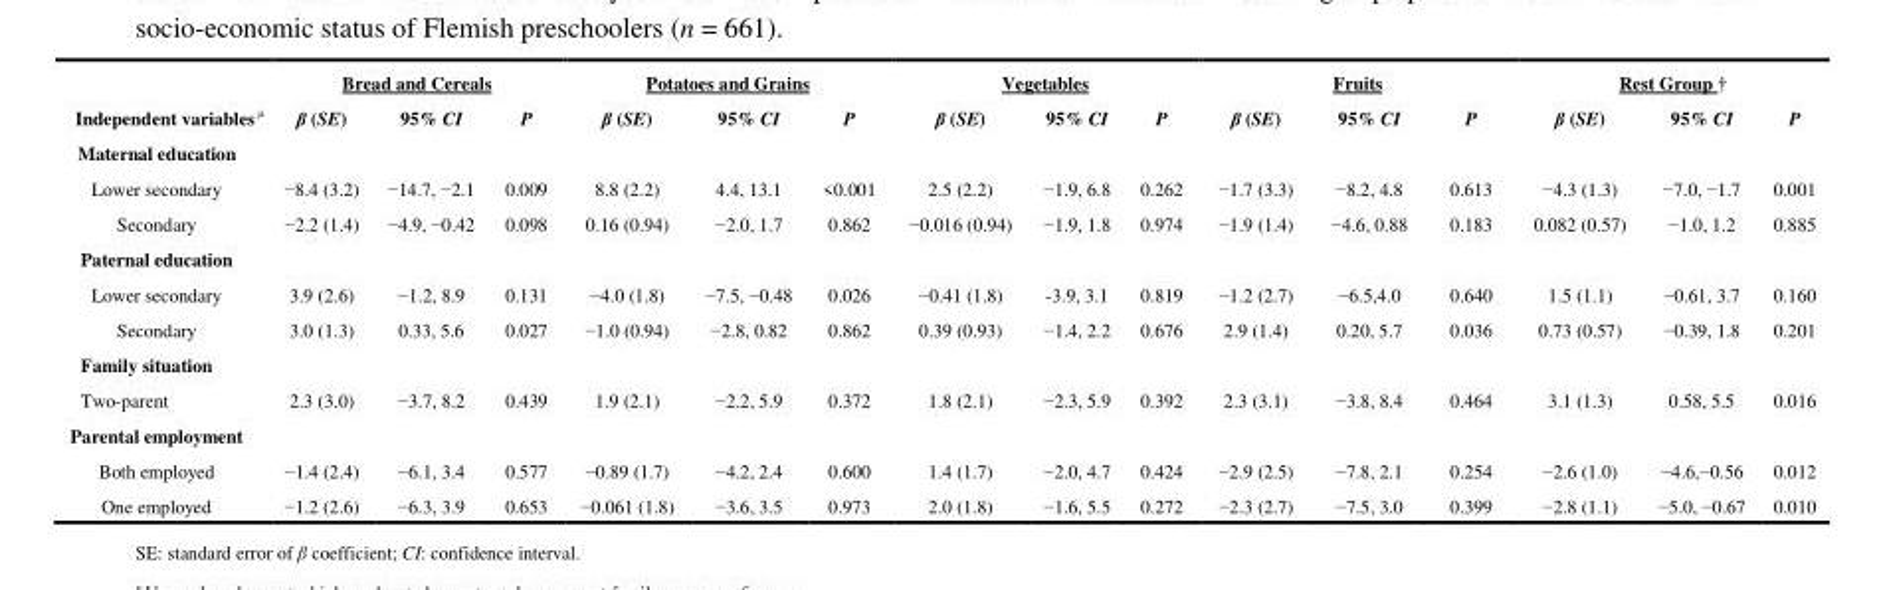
<table><thead><tr><td rowspan="2">Independent variables <sup>μ</sup></td><td colspan="3">Bread and Cereals</td><td colspan="3">Potatoes and Grains</td><td colspan="3">Vegetables</td><td colspan="3">Fruits</td><td colspan="3">Rest Group †</td></tr><tr><td>β (SE)</td><td>95% CI</td><td>P</td><td>β (SE)</td><td>95% CI</td><td>P</td><td>β (SE)</td><td>95% CI</td><td>P</td><td>β (SE)</td><td>95% CI</td><td>P</td><td>β (SE)</td><td>95% CI</td><td>P</td></tr></thead><tbody><tr><td colspan="16">Maternal education</td></tr><tr><td>Lower secondary</td><td>−8.4 (3.2)</td><td>−14.7, −2.1</td><td>0.009</td><td>8.8 (2.2)</td><td>4.4, 13.1</td><td>&lt;0.001</td><td>2.5 (2.2)</td><td>−1.9, 6.8</td><td>0.262</td><td>−1.7 (3.3)</td><td>−8.2, 4.8</td><td>0.613</td><td>−4.3 (1.3)</td><td>−7.0, −1.7</td><td>0.001</td></tr><tr><td>Secondary</td><td>−2.2 (1.4)</td><td>−4.9, −0.42</td><td>0.098</td><td>0.16 (0.94)</td><td>−2.0, 1.7</td><td>0.862</td><td>−0.016 (0.94)</td><td>−1.9, 1.8</td><td>0.974</td><td>−1.9 (1.4)</td><td>−4.6, 0.88</td><td>0.183</td><td>0.082 (0.57)</td><td>−1.0, 1.2</td><td>0.885</td></tr><tr><td colspan="16">Paternal education</td></tr><tr><td>Lower secondary</td><td>3.9 (2.6)</td><td>−1.2, 8.9</td><td>0.131</td><td>−4.0 (1.8)</td><td>−7.5, −0.48</td><td>0.026</td><td>−0.41 (1.8)</td><td>-3.9, 3.1</td><td>0.819</td><td>−1.2 (2.7)</td><td>−6.5,4.0</td><td>0.640</td><td>1.5 (1.1)</td><td>−0.61, 3.7</td><td>0.160</td></tr><tr><td>Secondary</td><td>3.0 (1.3)</td><td>0.33, 5.6</td><td>0.027</td><td>−1.0 (0.94)</td><td>−2.8, 0.82</td><td>0.862</td><td>0.39 (0.93)</td><td>−1.4, 2.2</td><td>0.676</td><td>2.9 (1.4)</td><td>0.20, 5.7</td><td>0.036</td><td>0.73 (0.57)</td><td>−0.39, 1.8</td><td>0.201</td></tr><tr><td colspan="16">Family situation</td></tr><tr><td>Two-parent</td><td>2.3 (3.0)</td><td>−3.7, 8.2</td><td>0.439</td><td>1.9 (2.1)</td><td>−2.2, 5.9</td><td>0.372</td><td>1.8 (2.1)</td><td>−2.3, 5.9</td><td>0.392</td><td>2.3 (3.1)</td><td>−3.8, 8.4</td><td>0.464</td><td>3.1 (1.3)</td><td>0.58, 5.5</td><td>0.016</td></tr><tr><td colspan="16">Parental employment</td></tr><tr><td>Both employed</td><td>−1.4 (2.4)</td><td>−6.1, 3.4</td><td>0.577</td><td>−0.89 (1.7)</td><td>−4.2, 2.4</td><td>0.600</td><td>1.4 (1.7)</td><td>−2.0, 4.7</td><td>0.424</td><td>−2.9 (2.5)</td><td>−7.8, 2.1</td><td>0.254</td><td>−2.6 (1.0)</td><td>−4.6,−0.56</td><td>0.012</td></tr><tr><td>One employed</td><td>−1.2 (2.6)</td><td>−6.3, 3.9</td><td>0.653</td><td>−0.061 (1.8)</td><td>−3.6, 3.5</td><td>0.973</td><td>2.0 (1.8)</td><td>−1.6, 5.5</td><td>0.272</td><td>−2.3 (2.7)</td><td>−7.5, 3.0</td><td>0.399</td><td>−2.8 (1.1)</td><td>−5.0, −0.67</td><td>0.010</td></tr></tbody></table>